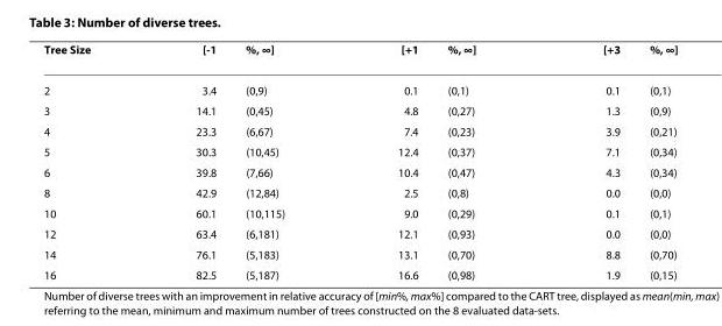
<table><thead><tr><td>Tree Size</td><td>[-1</td><td>%, ∞]</td><td>[+1</td><td>%, ∞]</td><td>[+3</td><td>%, ∞]</td></tr></thead><tbody><tr><td>2</td><td>3.4</td><td>(0,9)</td><td>0.1</td><td>(0,1)</td><td>0.1</td><td>(0,1)</td></tr><tr><td>3</td><td>14.1</td><td>(0,45)</td><td>4.8</td><td>(0,27)</td><td>1.3</td><td>(0,9)</td></tr><tr><td>4</td><td>23.3</td><td>(6,67)</td><td>7.4</td><td>(0,23)</td><td>3.9</td><td>(0,21)</td></tr><tr><td>5</td><td>30.3</td><td>(10,45)</td><td>12.4</td><td>(0,37)</td><td>7.1</td><td>(0,34)</td></tr><tr><td>6</td><td>39.8</td><td>(7,66)</td><td>10.4</td><td>(0,47)</td><td>4.3</td><td>(0,34)</td></tr><tr><td>8</td><td>42.9</td><td>(12,84)</td><td>2.5</td><td>(0,8)</td><td>0.0</td><td>(0,0)</td></tr><tr><td>10</td><td>60.1</td><td>(10,115)</td><td>9.0</td><td>(0,29)</td><td>0.1</td><td>(0,1)</td></tr><tr><td>12</td><td>63.4</td><td>(6,181)</td><td>12.1</td><td>(0,93)</td><td>0.0</td><td>(0,0)</td></tr><tr><td>14</td><td>76.1</td><td>(5,183)</td><td>13.1</td><td>(0,70)</td><td>8.8</td><td>(0,70)</td></tr><tr><td>16</td><td>82.5</td><td>(5,187)</td><td>16.6</td><td>(0,98)</td><td>1.9</td><td>(0,15)</td></tr></tbody></table>